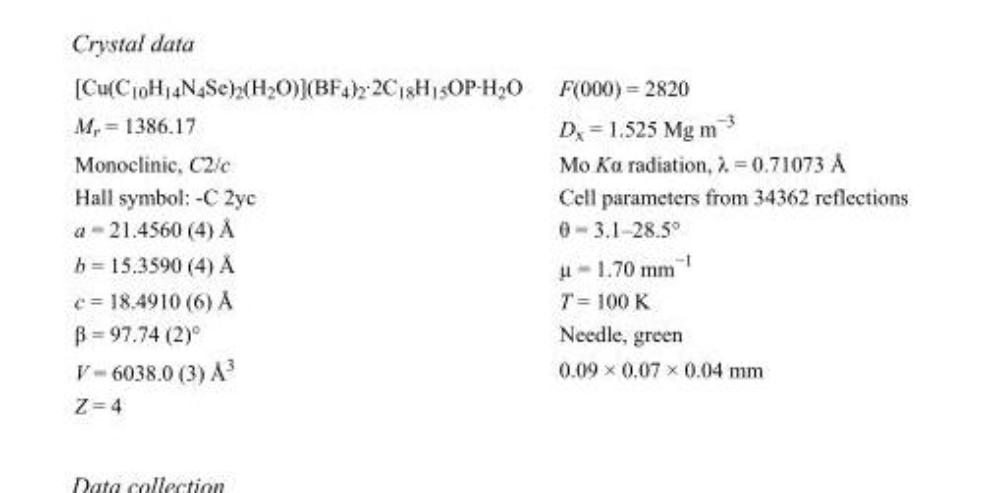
<table><tbody><tr><td>[Cu(C<sub>10</sub>H<sub>14</sub>N<sub>4</sub>Se)<sub>2</sub>(H<sub>2</sub>O)](BF<sub>4</sub>)<sub>2</sub>·2C<sub>18</sub>H<sub>15</sub>OP·H<sub>2</sub>O</td><td>F(000) = 2820</td></tr><tr><td>M<sub>r</sub> = 1386.17</td><td>D<sub>x</sub> = 1.525 Mg m<sup>−3</sup></td></tr><tr><td>Monoclinic, C2/c</td><td>Mo Kα radiation, λ = 0.71073 Å</td></tr><tr><td>Hall symbol: -C 2yc</td><td>Cell parameters from 34362 reflections</td></tr><tr><td>a = 21.4560 (4) Å</td><td>θ = 3.1–28.5°</td></tr><tr><td>b = 15.3590 (4) Å</td><td>µ = 1.70 mm<sup>−1</sup></td></tr><tr><td>c = 18.4910 (6) Å</td><td>T = 100 K</td></tr><tr><td>β = 97.74 (2)°</td><td>Needle, green</td></tr><tr><td>V = 6038.0 (3) Å<sup>3</sup></td><td>0.09 × 0.07 × 0.04 mm</td></tr><tr><td>Z = 4</td><td></td></tr></tbody></table>